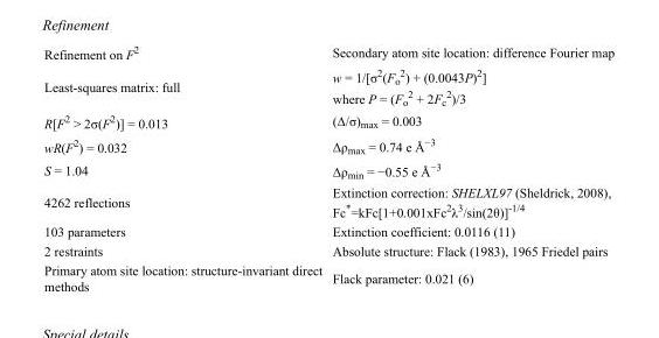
<table><tbody><tr><td>Refinement on F<sup>2</sup></td><td>Secondary atom site location: difference Fourier map</td></tr><tr><td>Least-squares matrix: full</td><td>w = 1/[σ<sup>2</sup>(F<sub>o</sub> <sup>2</sup>) + (0.0043P)<sup>2</sup>] where P = (F<sub>o</sub> <sup>2</sup> + 2F<sub>c</sub> <sup>2</sup>)/3</td></tr><tr><td>R[F<sup>2</sup> &gt; 2σ(F<sup>2</sup>)] = 0.013</td><td>(Δ/σ)<sub>max</sub> = 0.003</td></tr><tr><td>wR(F<sup>2</sup>) = 0.032</td><td>Δρ<sub>max</sub> = 0.74 e Å<sup>−3</sup></td></tr><tr><td>S = 1.04</td><td>Δρ<sub>min</sub> = −0.55 e Å<sup>−3</sup></td></tr><tr><td>4262 reflections</td><td>Extinction correction: SHELXL97 (Sheldrick, 2008), Fc*=kFc[1+0.001xFc<sup>2</sup>λ<sup>3</sup>/sin(2θ)]<sup>-1/4</sup></td></tr><tr><td>103 parameters</td><td>Extinction coefficient: 0.0116 (11)</td></tr><tr><td>2 restraints</td><td>Absolute structure: Flack (1983), 1965 Friedel pairs</td></tr><tr><td>Primary atom site location: structure-invariant direct methods</td><td>Flack parameter: 0.021 (6)</td></tr></tbody></table>